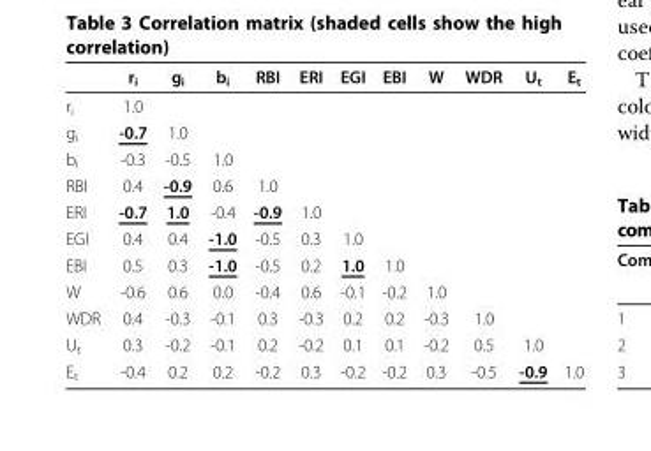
<table><thead><tr><td></td><td>r<sub>i</sub></td><td>g<sub>i</sub></td><td>b<sub>i</sub></td><td>RBI</td><td>ERI</td><td>EGI</td><td>EBI</td><td>W</td><td>WDR</td><td>U<sub>t</sub></td><td>E<sub>t</sub></td></tr></thead><tbody><tr><td>r<sub>i</sub></td><td>1.0</td><td></td><td></td><td></td><td></td><td></td><td></td><td></td><td></td><td></td><td></td></tr><tr><td>g<sub>i</sub></td><td>-0.7</td><td>1.0</td><td></td><td></td><td></td><td></td><td></td><td></td><td></td><td></td><td></td></tr><tr><td>b<sub>i</sub></td><td>-0.3</td><td>-0.5</td><td>1.0</td><td></td><td></td><td></td><td></td><td></td><td></td><td></td><td></td></tr><tr><td>RBI</td><td>0.4</td><td>-0.9</td><td>0.6</td><td>1.0</td><td></td><td></td><td></td><td></td><td></td><td></td><td></td></tr><tr><td>ERI</td><td>-0.7</td><td>1.0</td><td>-0.4</td><td>-0.9</td><td>1.0</td><td></td><td></td><td></td><td></td><td></td><td></td></tr><tr><td>EGI</td><td>0.4</td><td>0.4</td><td>-1.0</td><td>-0.5</td><td>0.3</td><td>1.0</td><td></td><td></td><td></td><td></td><td></td></tr><tr><td>EBI</td><td>0.5</td><td>0.3</td><td>-1.0</td><td>-0.5</td><td>0.2</td><td>1.0</td><td>1.0</td><td></td><td></td><td></td><td></td></tr><tr><td>W</td><td>-0.6</td><td>0.6</td><td>0.0</td><td>-0.4</td><td>0.6</td><td>-0.1</td><td>-0.2</td><td>1.0</td><td></td><td></td><td></td></tr><tr><td>WDR</td><td>0.4</td><td>-0.3</td><td>-0.1</td><td>0.3</td><td>-0.3</td><td>0.2</td><td>0.2</td><td>-0.3</td><td>1.0</td><td></td><td></td></tr><tr><td>U<sub>t</sub></td><td>0.3</td><td>-0.2</td><td>-0.1</td><td>0.2</td><td>-0.2</td><td>0.1</td><td>0.1</td><td>-0.2</td><td>0.5</td><td>1.0</td><td></td></tr><tr><td>E<sub>t</sub></td><td>-0.4</td><td>0.2</td><td>0.2</td><td>-0.2</td><td>0.3</td><td>-0.2</td><td>-0.2</td><td>0.3</td><td>-0.5</td><td>-0.9</td><td>1.0</td></tr></tbody></table>